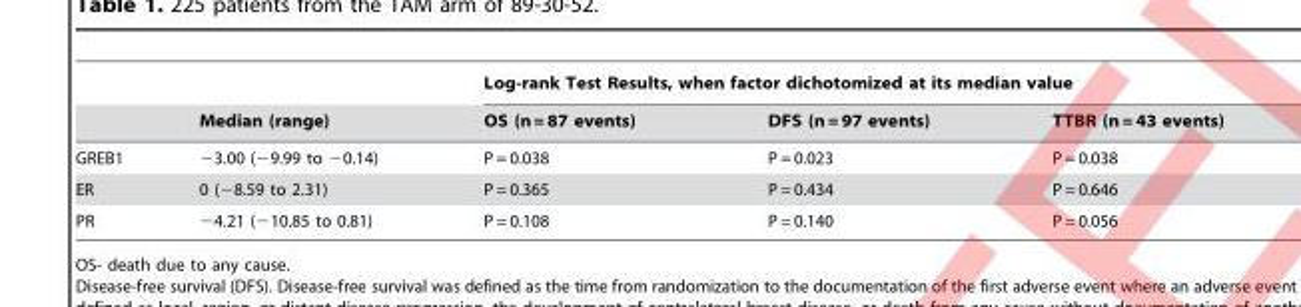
<table><thead><tr><td rowspan="2"></td><td rowspan="2">Median (range)</td><td colspan="3">Log-rank Test Results, when factor dichotomized at its median value</td></tr><tr><td>OS (n = 87 events)</td><td>DFS (n = 97 events)</td><td>TTBR (n = 43 events)</td></tr></thead><tbody><tr><td>GREB1</td><td>−3.00 (−9.99 to −0.14)</td><td>P = 0.038</td><td>P = 0.023</td><td>P = 0.038</td></tr><tr><td>ER</td><td>0 (−8.59 to 2.31)</td><td>P = 0.365</td><td>P = 0.434</td><td>P = 0.646</td></tr><tr><td>PR</td><td>−4.21 (−10.85 to 0.81)</td><td>P = 0.108</td><td>P = 0.140</td><td>P = 0.056</td></tr></tbody></table>